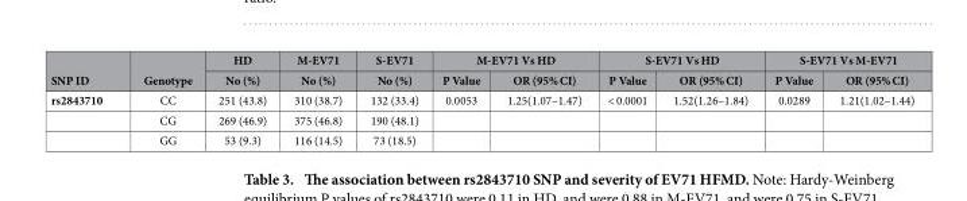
<table><thead><tr><td rowspan="2">SNP ID</td><td rowspan="2">Genotype</td><td rowspan="2">HD No (%)</td><td rowspan="2">M-EV71 No (%)</td><td rowspan="2">S-EV71 No (%)</td><td colspan="2">M-EV71 Vs HD</td><td colspan="2">S-EV71 Vs HD</td><td colspan="2">S-EV71 Vs M-EV71</td></tr><tr><td>P Value</td><td>OR (95% CI)</td><td>P Value</td><td>OR (95% CI)</td><td>P Value</td><td>OR (95% CI)</td></tr></thead><tbody><tr><td rowspan="3">rs2843710</td><td>CC</td><td>251 (43.8)</td><td>310 (38.7)</td><td>132 (33.4)</td><td>0.0053</td><td>1.25(1.07–1.47)</td><td>&lt; 0.0001</td><td>1.52(1.26–1.84)</td><td>0.0289</td><td>1.21(1.02–1.44)</td></tr><tr><td>CG</td><td>269 (46.9)</td><td>375 (46.8)</td><td>190 (48.1)</td><td></td><td></td><td></td><td></td><td></td><td></td></tr><tr><td>GG</td><td>53 (9.3)</td><td>116 (14.5)</td><td>73 (18.5)</td><td></td><td></td><td></td><td></td><td></td><td></td></tr></tbody></table>